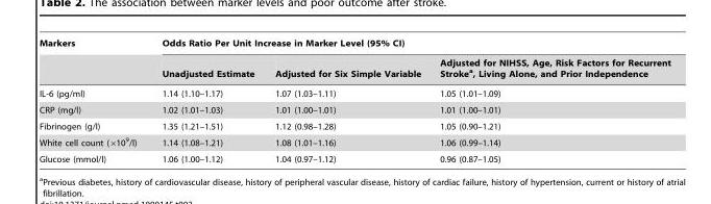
<table><thead><tr><td rowspan="2">Markers</td><td colspan="3">Odds Ratio Per Unit Increase in Marker Level (95% CI)</td></tr><tr><td>Unadjusted Estimate</td><td>Adjusted for Six Simple Variable</td><td>Adjusted for NIHSS, Age, Risk Factors for Recurrent Stroke<sup>a</sup>, Living Alone, and Prior Independence</td></tr></thead><tbody><tr><td>IL-6 (pg/ml)</td><td>1.14 (1.10–1.17)</td><td>1.07 (1.03–1.11)</td><td>1.05 (1.01–1.09)</td></tr><tr><td>CRP (mg/l)</td><td>1.02 (1.01–1.03)</td><td>1.01 (1.00–1.01)</td><td>1.01 (1.00–1.01)</td></tr><tr><td>Fibrinogen (g/l)</td><td>1.35 (1.21–1.51)</td><td>1.12 (0.98–1.28)</td><td>1.05 (0.90–1.21)</td></tr><tr><td>White cell count (×10<sup>9</sup>/l)</td><td>1.14 (1.08–1.21)</td><td>1.08 (1.01–1.16)</td><td>1.06 (0.99–1.14)</td></tr><tr><td>Glucose (mmol/l)</td><td>1.06 (1.00–1.12)</td><td>1.04 (0.97–1.12)</td><td>0.96 (0.87–1.05)</td></tr></tbody></table>